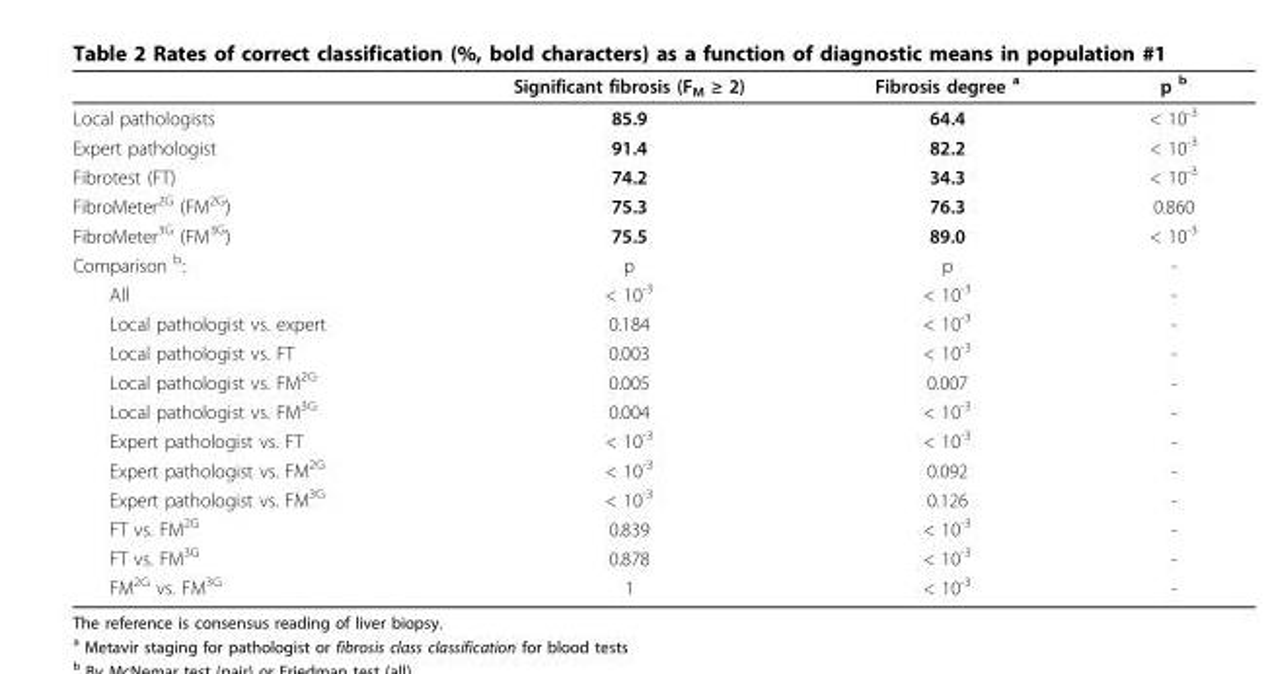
<table><thead><tr><td></td><td>Significant fibrosis (F<sub>M</sub> ≥ 2)</td><td>Fibrosis degree <sup>a</sup></td><td>p <sup>b</sup></td></tr></thead><tbody><tr><td>Local pathologists</td><td>85.9</td><td>64.4</td><td>&lt; 10<sup>-3</sup></td></tr><tr><td>Expert pathologist</td><td>91.4</td><td>82.2</td><td>&lt; 10<sup>-3</sup></td></tr><tr><td>Fibrotest (FT)</td><td>74.2</td><td>34.3</td><td>&lt; 10<sup>-3</sup></td></tr><tr><td>FibroMeter<sup>2G</sup> (FM<sup>2G</sup>)</td><td>75.3</td><td>76.3</td><td>0.860</td></tr><tr><td>FibroMeter<sup>3G</sup> (FM<sup>3G</sup>)</td><td>75.5</td><td>89.0</td><td>&lt; 10<sup>-3</sup></td></tr><tr><td>Comparison <sup>b</sup>:</td><td>p</td><td>p</td><td>-</td></tr><tr><td>All</td><td>&lt; 10<sup>-3</sup></td><td>&lt; 10<sup>-3</sup></td><td>-</td></tr><tr><td>Local pathologist vs. expert</td><td>0.184</td><td>&lt; 10<sup>-3</sup></td><td>-</td></tr><tr><td>Local pathologist vs. FT</td><td>0.003</td><td>&lt; 10<sup>-3</sup></td><td>-</td></tr><tr><td>Local pathologist vs. FM<sup>2G</sup></td><td>0.005</td><td>0.007</td><td>-</td></tr><tr><td>Local pathologist vs. FM<sup>3G</sup></td><td>0.004</td><td>&lt; 10<sup>-3</sup></td><td>-</td></tr><tr><td>Expert pathologist vs. FT</td><td>&lt; 10<sup>-3</sup></td><td>&lt; 10<sup>-3</sup></td><td>-</td></tr><tr><td>Expert pathologist vs. FM<sup>2G</sup></td><td>&lt; 10<sup>-3</sup></td><td>0.092</td><td>-</td></tr><tr><td>Expert pathologist vs. FM<sup>3G</sup></td><td>&lt; 10<sup>-3</sup></td><td>0.126</td><td>-</td></tr><tr><td>FT vs. FM<sup>2G</sup></td><td>0.839</td><td>&lt; 10<sup>-3</sup></td><td>-</td></tr><tr><td>FT vs. FM<sup>3G</sup></td><td>0.878</td><td>&lt; 10<sup>-3</sup></td><td>-</td></tr><tr><td>FM<sup>2G</sup> vs. FM<sup>3G</sup></td><td>1</td><td>&lt; 10<sup>-3</sup></td><td>-</td></tr></tbody></table>